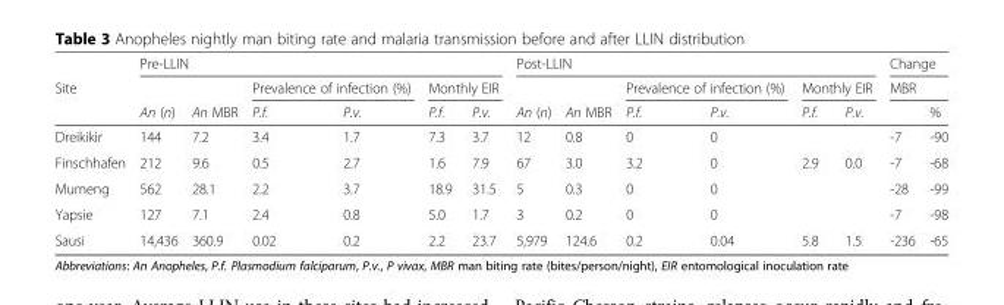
<table><thead><tr><td rowspan="3">Site</td><td colspan="6">Pre-LLIN</td><td colspan="6">Post-LLIN</td><td rowspan="2" colspan="2">Change MBR</td></tr><tr><td rowspan="2">An (n)</td><td rowspan="2">An MBR</td><td colspan="2">Prevalence of infection (%)</td><td colspan="2">Monthly EIR</td><td rowspan="2">An (n)</td><td rowspan="2">An MBR</td><td colspan="2">Prevalence of infection (%)</td><td colspan="2">Monthly EIR</td></tr><tr><td>P.f.</td><td>P.v.</td><td>P.f.</td><td>P.v.</td><td>P.f.</td><td>P.v.</td><td>P.f.</td><td>P.v.</td><td></td><td>%</td></tr></thead><tbody><tr><td>Dreikikir</td><td>144</td><td>7.2</td><td>3.4</td><td>1.7</td><td>7.3</td><td>3.7</td><td>12</td><td>0.8</td><td>0</td><td>0</td><td></td><td></td><td>-7</td><td>-90</td></tr><tr><td>Finschhafen</td><td>212</td><td>9.6</td><td>0.5</td><td>2.7</td><td>1.6</td><td>7.9</td><td>67</td><td>3.0</td><td>3.2</td><td>0</td><td>2.9</td><td>0.0</td><td>-7</td><td>-68</td></tr><tr><td>Mumeng</td><td>562</td><td>28.1</td><td>2.2</td><td>3.7</td><td>18.9</td><td>31.5</td><td>5</td><td>0.3</td><td>0</td><td>0</td><td></td><td></td><td>-28</td><td>-99</td></tr><tr><td>Yapsie</td><td>127</td><td>7.1</td><td>2.4</td><td>0.8</td><td>5.0</td><td>1.7</td><td>3</td><td>0.2</td><td>0</td><td>0</td><td></td><td></td><td>-7</td><td>-98</td></tr><tr><td>Sausi</td><td>14,436</td><td>360.9</td><td>0.02</td><td>0.2</td><td>2.2</td><td>23.7</td><td>5,979</td><td>124.6</td><td>0.2</td><td>0.04</td><td>5.8</td><td>1.5</td><td>-236</td><td>-65</td></tr></tbody></table>